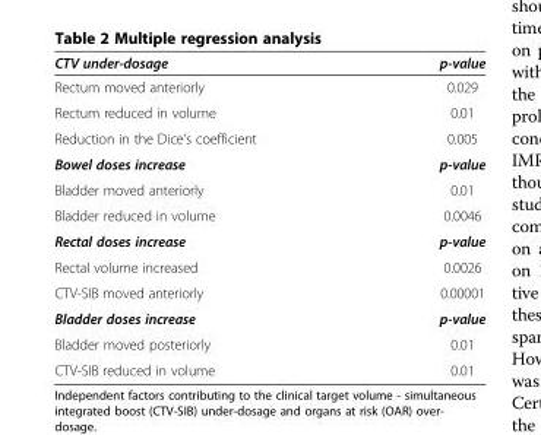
<table><thead><tr><td>CTV under-dosage</td><td>p-value</td></tr></thead><tbody><tr><td>Rectum moved anteriorly</td><td>0.029</td></tr><tr><td>Rectum reduced in volume</td><td>0.01</td></tr><tr><td>Reduction in the Dice’s coefficient</td><td>0.005</td></tr><tr><td>Bowel doses increase</td><td>p-value</td></tr><tr><td>Bladder moved anteriorly</td><td>0.01</td></tr><tr><td>Bladder reduced in volume</td><td>0.0046</td></tr><tr><td>Rectal doses increase</td><td>p-value</td></tr><tr><td>Rectal volume increased</td><td>0.0026</td></tr><tr><td>CTV-SIB moved anteriorly</td><td>0.00001</td></tr><tr><td>Bladder doses increase</td><td>p-value</td></tr><tr><td>Bladder moved posteriorly</td><td>0.01</td></tr><tr><td>CTV-SIB reduced in volume</td><td>0.01</td></tr></tbody></table>